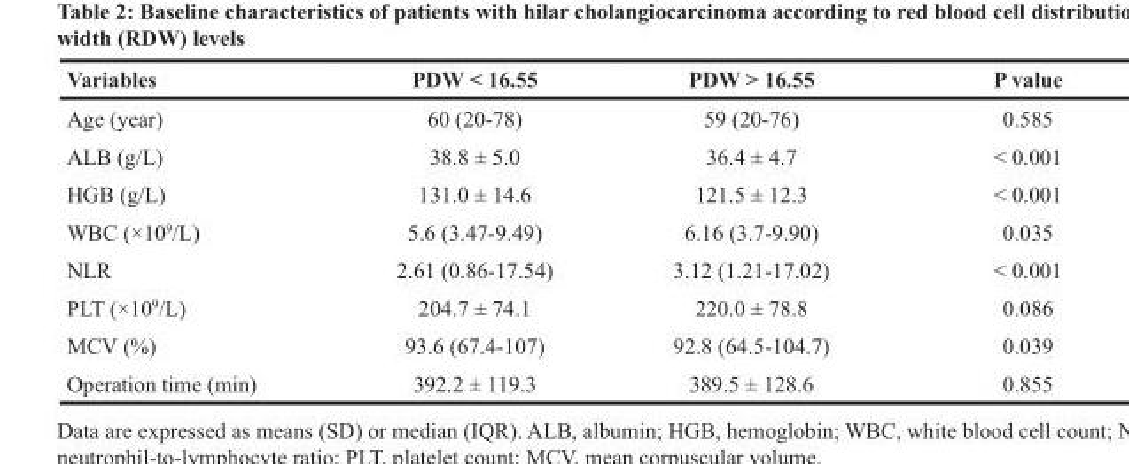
<table><thead><tr><td>Variables</td><td>PDW &lt; 16.55</td><td>PDW &gt; 16.55</td><td>P value</td></tr></thead><tbody><tr><td>Age (year)</td><td>60 (20-78)</td><td>59 (20-76)</td><td>0.585</td></tr><tr><td>ALB (g/L)</td><td>38.8 ± 5.0</td><td>36.4 ± 4.7</td><td>&lt; 0.001</td></tr><tr><td>HGB (g/L)</td><td>131.0 ± 14.6</td><td>121.5 ± 12.3</td><td>&lt; 0.001</td></tr><tr><td>WBC (×10<sup>9</sup>/L)</td><td>5.6 (3.47-9.49)</td><td>6.16 (3.7-9.90)</td><td>0.035</td></tr><tr><td>NLR</td><td>2.61 (0.86-17.54)</td><td>3.12 (1.21-17.02)</td><td>&lt; 0.001</td></tr><tr><td>PLT (×10<sup>9</sup>/L)</td><td>204.7 ± 74.1</td><td>220.0 ± 78.8</td><td>0.086</td></tr><tr><td>MCV (%)</td><td>93.6 (67.4-107)</td><td>92.8 (64.5-104.7)</td><td>0.039</td></tr><tr><td>Operation time (min)</td><td>392.2 ± 119.3</td><td>389.5 ± 128.6</td><td>0.855</td></tr></tbody></table>